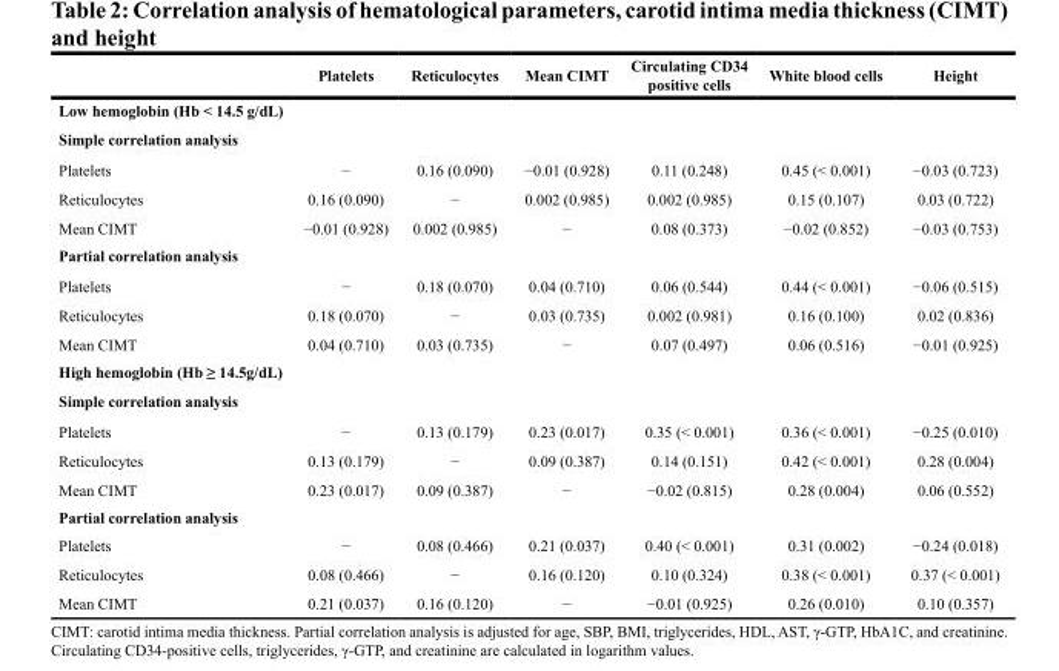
<table><thead><tr><td></td><td>Platelets</td><td>Reticulocytes</td><td>Mean CIMT</td><td>Circulating CD34 positive cells</td><td>White blood cells</td><td>Height</td></tr></thead><tbody><tr><td colspan="7">Low hemoglobin (Hb &lt; 14.5 g/dL)</td></tr><tr><td colspan="7">Simple correlation analysis</td></tr><tr><td>Platelets</td><td>−</td><td>0.16 (0.090)</td><td>−0.01 (0.928)</td><td>0.11 (0.248)</td><td>0.45 (&lt; 0.001)</td><td>−0.03 (0.723)</td></tr><tr><td>Reticulocytes</td><td>0.16 (0.090)</td><td>−</td><td>0.002 (0.985)</td><td>0.002 (0.985)</td><td>0.15 (0.107)</td><td>0.03 (0.722)</td></tr><tr><td>Mean CIMT</td><td>−0.01 (0.928)</td><td>0.002 (0.985)</td><td>−</td><td>0.08 (0.373)</td><td>−0.02 (0.852)</td><td>−0.03 (0.753)</td></tr><tr><td colspan="7">Partial correlation analysis</td></tr><tr><td>Platelets</td><td>−</td><td>0.18 (0.070)</td><td>0.04 (0.710)</td><td>0.06 (0.544)</td><td>0.44 (&lt; 0.001)</td><td>−0.06 (0.515)</td></tr><tr><td>Reticulocytes</td><td>0.18 (0.070)</td><td>−</td><td>0.03 (0.735)</td><td>0.002 (0.981)</td><td>0.16 (0.100)</td><td>0.02 (0.836)</td></tr><tr><td>Mean CIMT</td><td>0.04 (0.710)</td><td>0.03 (0.735)</td><td>−</td><td>0.07 (0.497)</td><td>0.06 (0.516)</td><td>−0.01 (0.925)</td></tr><tr><td colspan="7">High hemoglobin (Hb ≥ 14.5g/dL)</td></tr><tr><td colspan="7">Simple correlation analysis</td></tr><tr><td>Platelets</td><td>−</td><td>0.13 (0.179)</td><td>0.23 (0.017)</td><td>0.35 (&lt; 0.001)</td><td>0.36 (&lt; 0.001)</td><td>−0.25 (0.010)</td></tr><tr><td>Reticulocytes</td><td>0.13 (0.179)</td><td>−</td><td>0.09 (0.387)</td><td>0.14 (0.151)</td><td>0.42 (&lt; 0.001)</td><td>0.28 (0.004)</td></tr><tr><td>Mean CIMT</td><td>0.23 (0.017)</td><td>0.09 (0.387)</td><td>−</td><td>−0.02 (0.815)</td><td>0.28 (0.004)</td><td>0.06 (0.552)</td></tr><tr><td colspan="7">Partial correlation analysis</td></tr><tr><td>Platelets</td><td>−</td><td>0.08 (0.466)</td><td>0.21 (0.037)</td><td>0.40 (&lt; 0.001)</td><td>0.31 (0.002)</td><td>−0.24 (0.018)</td></tr><tr><td>Reticulocytes</td><td>0.08 (0.466)</td><td>−</td><td>0.16 (0.120)</td><td>0.10 (0.324)</td><td>0.38 (&lt; 0.001)</td><td>0.37 (&lt; 0.001)</td></tr><tr><td>Mean CIMT</td><td>0.21 (0.037)</td><td>0.16 (0.120)</td><td>−</td><td>−0.01 (0.925)</td><td>0.26 (0.010)</td><td>0.10 (0.357)</td></tr></tbody></table>